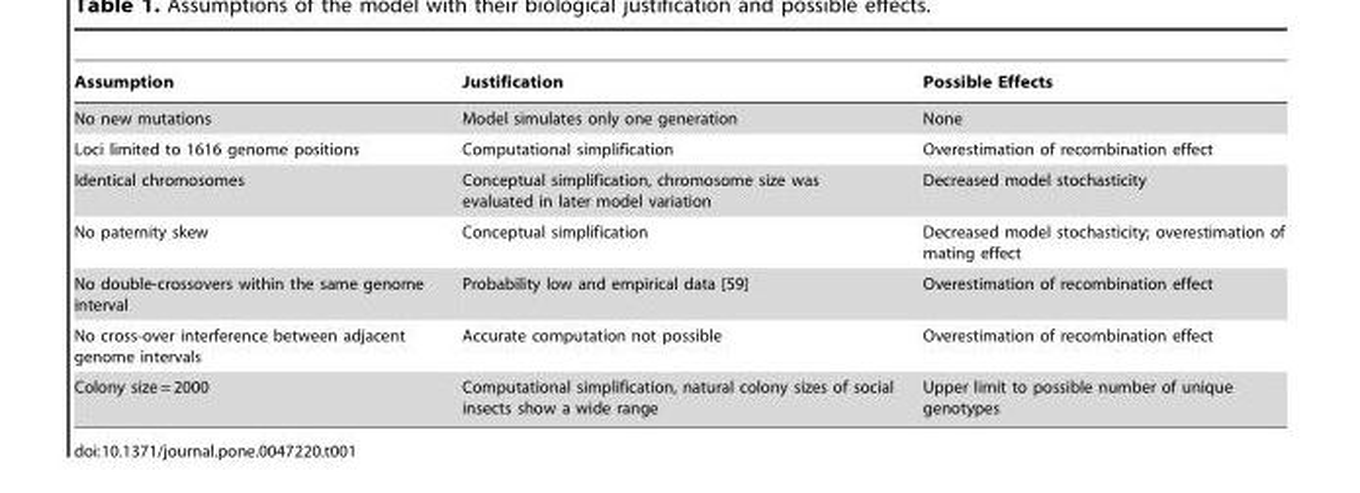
<table><thead><tr><td>Assumption</td><td>Justification</td><td>Possible Effects</td></tr></thead><tbody><tr><td>No new mutations</td><td>Model simulates only one generation</td><td>None</td></tr><tr><td>Loci limited to 1616 genome positions</td><td>Computational simplification</td><td>Overestimation of recombination effect</td></tr><tr><td>Identical chromosomes</td><td>Conceptual simplification, chromosome size was evaluated in later model variation</td><td>Decreased model stochasticity</td></tr><tr><td>No paternity skew</td><td>Conceptual simplification</td><td>Decreased model stochasticity; overestimation of mating effect</td></tr><tr><td>No double-crossovers within the same genome interval</td><td>Probability low and empirical data [59]</td><td>Overestimation of recombination effect</td></tr><tr><td>No cross-over interference between adjacent genome intervals</td><td>Accurate computation not possible</td><td>Overestimation of recombination effect</td></tr><tr><td>Colony size = 2000</td><td>Computational simplification, natural colony sizes of social insects show a wide range</td><td>Upper limit to possible number of unique genotypes</td></tr></tbody></table>